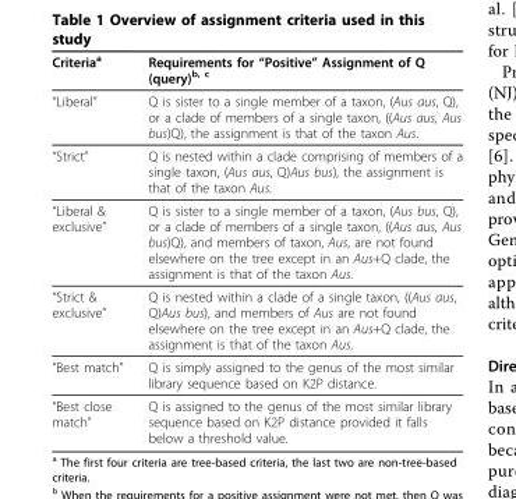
<table><thead><tr><td>Criteriaa</td><td>Requirements for “Positive” Assignment of Q (query)b, c</td></tr></thead><tbody><tr><td>“Liberal”</td><td>Q is sister to a single member of a taxon, (Aus aus, Q), or a clade of members of a single taxon, ((Aus aus, Aus bus)Q), the assignment is that of the taxon Aus.</td></tr><tr><td>“Strict”</td><td>Q is nested within a clade comprising of members of a single taxon, (Aus aus, Q)Aus bus), the assignment is that of the taxon Aus.</td></tr><tr><td>“Liberal &amp; exclusive”</td><td>Q is sister to a single member of a taxon, (Aus bus, Q), or a clade of members of a single taxon, ((Aus aus, Aus bus)Q), and members of taxon, Aus, are not found elsewhere on the tree except in an Aus+Q clade, the assignment is that of the taxon Aus.</td></tr><tr><td>“Strict &amp; exclusive”</td><td>Q is nested within a clade of a single taxon, ((Aus aus, Q)Aus bus), and members of Aus are not found elsewhere on the tree except in an Aus+Q clade, the assignment is that of the taxon Aus.</td></tr><tr><td>“Best match”</td><td>Q is simply assigned to the genus of the most similar library sequence based on K2P distance.</td></tr><tr><td>“Best close match”</td><td>Q is assigned to the genus of the most similar library sequence based on K2P distance provided it falls below a threshold value.</td></tr></tbody></table>